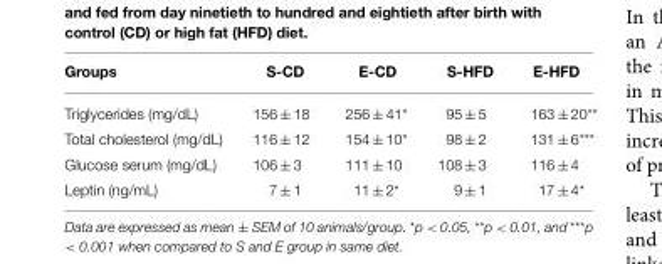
<table><thead><tr><td>Groups</td><td>S-CD</td><td>E-CD</td><td>S-HFD</td><td>E-HFD</td></tr></thead><tbody><tr><td>Triglycerides (mg/dL)</td><td>156 ± 18</td><td>256 ± 41*</td><td>95 ± 5</td><td>163 ± 20**</td></tr><tr><td>Total cholesterol (mg/dL)</td><td>116 ± 12</td><td>154 ± 10*</td><td>98 ± 2</td><td>131 ± 6***</td></tr><tr><td>Glucose serum (mg/dL)</td><td>106 ± 3</td><td>111 ± 10</td><td>108 ± 3</td><td>116 ± 4</td></tr><tr><td>Leptin (ng/mL)</td><td>7 ± 1</td><td>11 ± 2*</td><td>9 ± 1</td><td>17 ± 4*</td></tr></tbody></table>